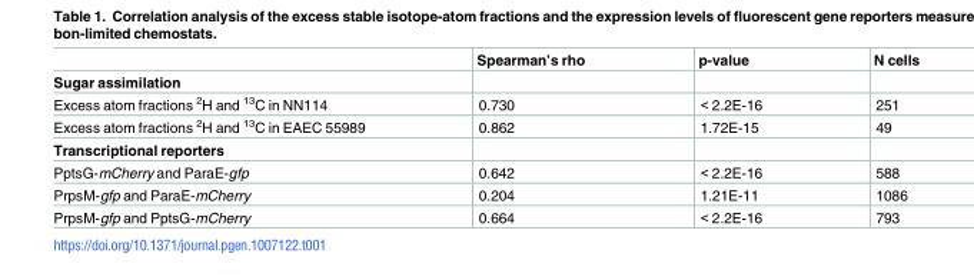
<table><thead><tr><td></td><td>Spearman’s rho</td><td>p-value</td><td>N cells</td></tr></thead><tbody><tr><td colspan="4">Sugar assimilation</td></tr><tr><td>Excess atom fractions <sup>2</sup>H and <sup>13</sup>C in NN114</td><td>0.730</td><td>&lt; 2.2E-16</td><td>251</td></tr><tr><td>Excess atom fractions <sup>2</sup>H and <sup>13</sup>C in EAEC 55989</td><td>0.862</td><td>1.72E-15</td><td>49</td></tr><tr><td colspan="4">Transcriptional reporters</td></tr><tr><td>PptsG-mCherry and ParaE-gfp</td><td>0.642</td><td>&lt; 2.2E-16</td><td>588</td></tr><tr><td>PrpsM-gfp and ParaE-mCherry</td><td>0.204</td><td>1.21E-11</td><td>1086</td></tr><tr><td>PrpsM-gfp and PptsG-mCherry</td><td>0.664</td><td>&lt; 2.2E-16</td><td>793</td></tr></tbody></table>